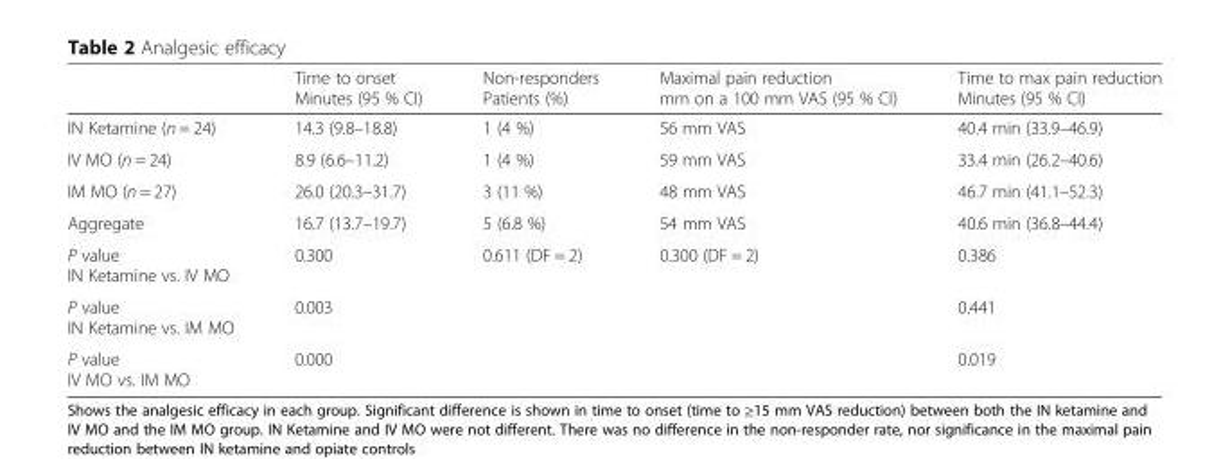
<table><thead><tr><td></td><td>Time to onset Minutes (95 % CI)</td><td>Non-responders Patients (%)</td><td>Maximal pain reduction mm on a 100 mm VAS (95 % CI)</td><td>Time to max pain reduction Minutes (95 % CI)</td></tr></thead><tbody><tr><td>IN Ketamine (n = 24)</td><td>14.3 (9.8–18.8)</td><td>1 (4 %)</td><td>56 mm VAS</td><td>40.4 min (33.9–46.9)</td></tr><tr><td>IV MO (n = 24)</td><td>8.9 (6.6–11.2)</td><td>1 (4 %)</td><td>59 mm VAS</td><td>33.4 min (26.2–40.6)</td></tr><tr><td>IM MO (n = 27)</td><td>26.0 (20.3–31.7)</td><td>3 (11 %)</td><td>48 mm VAS</td><td>46.7 min (41.1–52.3)</td></tr><tr><td>Aggregate</td><td>16.7 (13.7–19.7)</td><td>5 (6.8 %)</td><td>54 mm VAS</td><td>40.6 min (36.8–44.4)</td></tr><tr><td>P value IN Ketamine vs. IV MO</td><td>0.300</td><td rowspan="3">0.611 (DF = 2)</td><td>0.300 (DF = 2)</td><td>0.386</td></tr><tr><td>P value IN Ketamine vs. IM MO</td><td>0.003</td><td></td><td>0.441</td></tr><tr><td>P value IV MO vs. IM MO</td><td>0.000</td><td></td><td>0.019</td></tr></tbody></table>